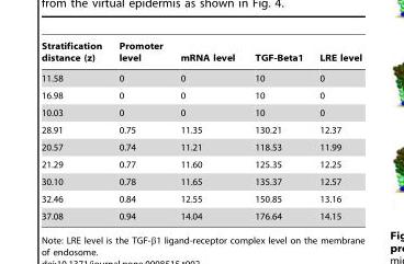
<table><thead><tr><td>Stratification distance (z)</td><td>Promoter level</td><td>mRNA level</td><td>TGF-Beta1</td><td>LRE level</td></tr></thead><tbody><tr><td>11.58</td><td>0</td><td>0</td><td>10</td><td>0</td></tr><tr><td>16.98</td><td>0</td><td>0</td><td>10</td><td>0</td></tr><tr><td>10.03</td><td>0</td><td>0</td><td>10</td><td>0</td></tr><tr><td>28.91</td><td>0.75</td><td>11.35</td><td>130.21</td><td>12.37</td></tr><tr><td>20.57</td><td>0.74</td><td>11.21</td><td>118.53</td><td>11.99</td></tr><tr><td>21.29</td><td>0.77</td><td>11.60</td><td>125.35</td><td>12.25</td></tr><tr><td>30.10</td><td>0.78</td><td>11.65</td><td>135.37</td><td>12.57</td></tr><tr><td>32.46</td><td>0.84</td><td>12.55</td><td>150.85</td><td>13.16</td></tr><tr><td>37.08</td><td>0.94</td><td>14.04</td><td>176.64</td><td>14.15</td></tr></tbody></table>